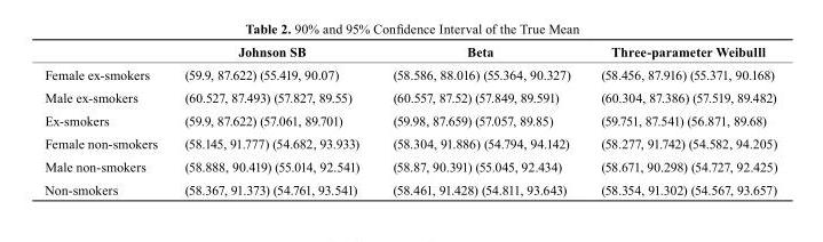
<table><thead><tr><td></td><td>Johnson sb</td><td>beta</td><td>three-parameter Weibulll</td></tr></thead><tbody><tr><td>Female ex-smokers</td><td>(59.9, 87.622) (55.419, 90.07)</td><td>(58.586, 88.016) (55.364, 90.327)</td><td>(58.456, 87.916) (55.371, 90.168)</td></tr><tr><td>Male ex-smokers</td><td>(60.527, 87.493) (57.827, 89.55)</td><td>(60.557, 87.52) (57.849, 89.591)</td><td>(60.304, 87.386) (57.519, 89.482)</td></tr><tr><td>Ex-smokers</td><td>(59.9, 87.622) (57.061, 89.701)</td><td>(59.98, 87.659) (57.057, 89.85)</td><td>(59.751, 87.541) (56.871, 89.68)</td></tr><tr><td>Female non-smokers</td><td>(58.145, 91.777) (54.682, 93.933)</td><td>(58.304, 91.886) (54.794, 94.142)</td><td>(58.277, 91.742) (54.582, 94.205)</td></tr><tr><td>Male non-smokers</td><td>(58.888, 90.419) (55.014, 92.541)</td><td>(58.87, 90.391) (55.045, 92.434)</td><td>(58.671, 90.298) (54.727, 92.425)</td></tr><tr><td>Non-smokers</td><td>(58.367, 91.373) (54.761, 93.541)</td><td>(58.461, 91.428) (54.811, 93.643)</td><td>(58.354, 91.302) (54.567, 93.657)</td></tr></tbody></table>